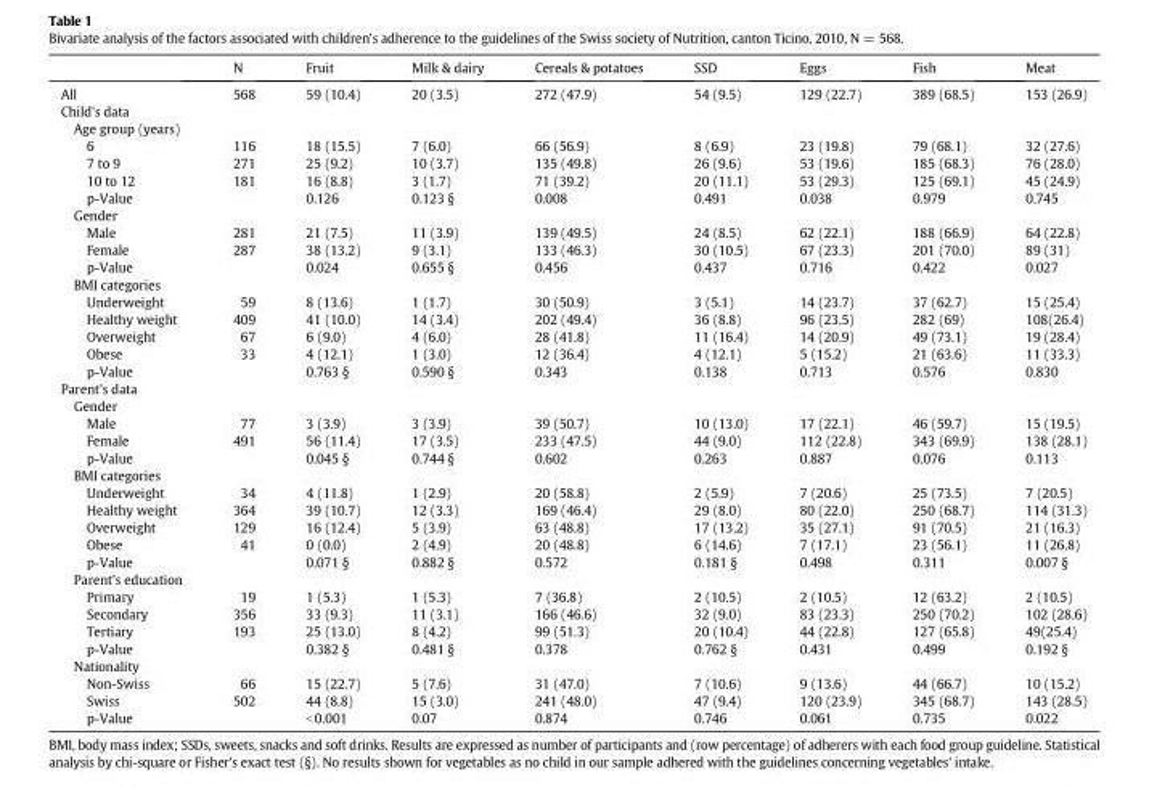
<table><thead><tr><td></td><td>N</td><td>Fruit</td><td>Milk &amp; dairy</td><td>Cereals &amp; potatoes</td><td>SSD</td><td>Eggs</td><td>Fish</td><td>Meat</td></tr></thead><tbody><tr><td>All</td><td>568</td><td>59 (10.4)</td><td>20 (3.5)</td><td>272 (47.9)</td><td>54 (9.5)</td><td>129 (22.7)</td><td>389 (68.5)</td><td>153 (26.9)</td></tr><tr><td colspan="9">Child&#x27;s data</td></tr><tr><td colspan="9">Age group (years)</td></tr><tr><td>6</td><td>116</td><td>18 (15.5)</td><td>7 (6.0)</td><td>66 (56.9)</td><td>8 (6.9)</td><td>23 (19.8)</td><td>79 (68.1)</td><td>32 (27.6)</td></tr><tr><td>7 to 9</td><td>271</td><td>25 (9.2)</td><td>10 (3.7)</td><td>135 (49.8)</td><td>26 (9.6)</td><td>53 (19.6)</td><td>185 (68.3)</td><td>76 (28.0)</td></tr><tr><td>10 to 12</td><td>181</td><td>16 (8.8)</td><td>3 (1.7)</td><td>71 (39.2)</td><td>20 (11.1)</td><td>53 (29.3)</td><td>125 (69.1)</td><td>45 (24.9)</td></tr><tr><td>p-Value</td><td></td><td>0.126</td><td>0.123 §</td><td>0.008</td><td>0.491</td><td>0.038</td><td>0.979</td><td>0.745</td></tr><tr><td colspan="9">Gender</td></tr><tr><td>Male</td><td>281</td><td>21 (7.5)</td><td>11 (3.9)</td><td>139 (49.5)</td><td>24 (8.5)</td><td>62 (22.1)</td><td>188 (66.9)</td><td>64 (22.8)</td></tr><tr><td>Female</td><td>287</td><td>38 (13.2)</td><td>9 (3.1)</td><td>133 (46.3)</td><td>30 (10.5)</td><td>67 (23.3)</td><td>201 (70.0)</td><td>89 (31)</td></tr><tr><td>p-Value</td><td></td><td>0.024</td><td>0.655 §</td><td>0.456</td><td>0.437</td><td>0.716</td><td>0.422</td><td>0.027</td></tr><tr><td colspan="9">BMI categories</td></tr><tr><td>Underweight</td><td>59</td><td>8 (13.6)</td><td>1 (1.7)</td><td>30 (50.9)</td><td>3 (5.1)</td><td>14 (23.7)</td><td>37 (62.7)</td><td>15 (25.4)</td></tr><tr><td>Healthy weight</td><td>409</td><td>41 (10.0)</td><td>14 (3.4)</td><td>202 (49.4)</td><td>36 (8.8)</td><td>96 (23.5)</td><td>282 (69)</td><td>108(26.4)</td></tr><tr><td>Overweight</td><td>67</td><td>6 (9.0)</td><td>4 (6.0)</td><td>28 (41.8)</td><td>11 (16.4)</td><td>14 (20.9)</td><td>49 (73.1)</td><td>19 (28.4)</td></tr><tr><td>Obese</td><td>33</td><td>4 (12.1)</td><td>1 (3.0)</td><td>12 (36.4)</td><td>4 (12.1)</td><td>5 (15.2)</td><td>21 (63.6)</td><td>11 (33.3)</td></tr><tr><td>p-Value</td><td></td><td>0.763 §</td><td>0.590 §</td><td>0.343</td><td>0.138</td><td>0.713</td><td>0.576</td><td>0.830</td></tr><tr><td colspan="9">Parent&#x27;s data</td></tr><tr><td colspan="9">Gender</td></tr><tr><td>Male</td><td>77</td><td>3 (3.9)</td><td>3 (3.9)</td><td>39 (50.7)</td><td>10 (13.0)</td><td>17 (22.1)</td><td>46 (59.7)</td><td>15 (19.5)</td></tr><tr><td>Female</td><td>491</td><td>56 (11.4)</td><td>17 (3.5)</td><td>233 (47.5)</td><td>44 (9.0)</td><td>112 (22.8)</td><td>343 (69.9)</td><td>138 (28.1)</td></tr><tr><td>p-Value</td><td></td><td>0.045 §</td><td>0.744 §</td><td>0.602</td><td>0.263</td><td>0.887</td><td>0.076</td><td>0.113</td></tr><tr><td colspan="9">BMI categories</td></tr><tr><td>Underweight</td><td>34</td><td>4 (11.8)</td><td>1 (2.9)</td><td>20 (58.8)</td><td>2 (5.9)</td><td>7 (20.6)</td><td>25 (73.5)</td><td>7 (20.5)</td></tr><tr><td>Healthy weight</td><td>364</td><td>39 (10.7)</td><td>12 (3.3)</td><td>169 (46.4)</td><td>29 (8.0)</td><td>80 (22.0)</td><td>250 (68.7)</td><td>114 (31.3)</td></tr><tr><td>Overweight</td><td>129</td><td>16 (12.4)</td><td>5 (3.9)</td><td>63 (48.8)</td><td>17 (13.2)</td><td>35 (27.1)</td><td>91 (70.5)</td><td>21 (16.3)</td></tr><tr><td>Obese</td><td>41</td><td>0 (0.0)</td><td>2 (4.9)</td><td>20 (48.8)</td><td>6 (14.6)</td><td>7 (17.1)</td><td>23 (56.1)</td><td>11 (26.8)</td></tr><tr><td>p-Value</td><td></td><td>0.071 §</td><td>0.882 §</td><td>0.572</td><td>0.181 §</td><td>0.498</td><td>0.311</td><td>0.007 §</td></tr><tr><td colspan="9">Parent&#x27;s education</td></tr><tr><td>Primary</td><td>19</td><td>1 (5.3)</td><td>1 (5.3)</td><td>7 (36.8)</td><td>2 (10.5)</td><td>2 (10.5)</td><td>12 (63.2)</td><td>2 (10.5)</td></tr><tr><td>Secondary</td><td>356</td><td>33 (9.3)</td><td>11 (3.1)</td><td>166 (46.6)</td><td>32 (9.0)</td><td>83 (23.3)</td><td>250 (70.2)</td><td>102 (28.6)</td></tr><tr><td>Tertiary</td><td>193</td><td>25 (13.0)</td><td>8 (4.2)</td><td>99 (51.3)</td><td>20 (10.4)</td><td>44 (22.8)</td><td>127 (65.8)</td><td>49(25.4)</td></tr><tr><td>p-Value</td><td></td><td>0.382 §</td><td>0.481 §</td><td>0.378</td><td>0.762 §</td><td>0.431</td><td>0.499</td><td>0.192 §</td></tr><tr><td colspan="9">Nationality</td></tr><tr><td>Non-Swiss</td><td>66</td><td>15 (22.7)</td><td>5 (7.6)</td><td>31 (47.0)</td><td>7 (10.6)</td><td>9 (13.6)</td><td>44 (66.7)</td><td>10 (15.2)</td></tr><tr><td>Swiss</td><td>502</td><td>44 (8.8)</td><td>15 (3.0)</td><td>241 (48.0)</td><td>47 (9.4)</td><td>120 (23.9)</td><td>345 (68.7)</td><td>143 (28.5)</td></tr><tr><td>p-Value</td><td></td><td>&lt;0.001</td><td>0.07</td><td>0.874</td><td>0.746</td><td>0.061</td><td>0.735</td><td>0.022</td></tr></tbody></table>